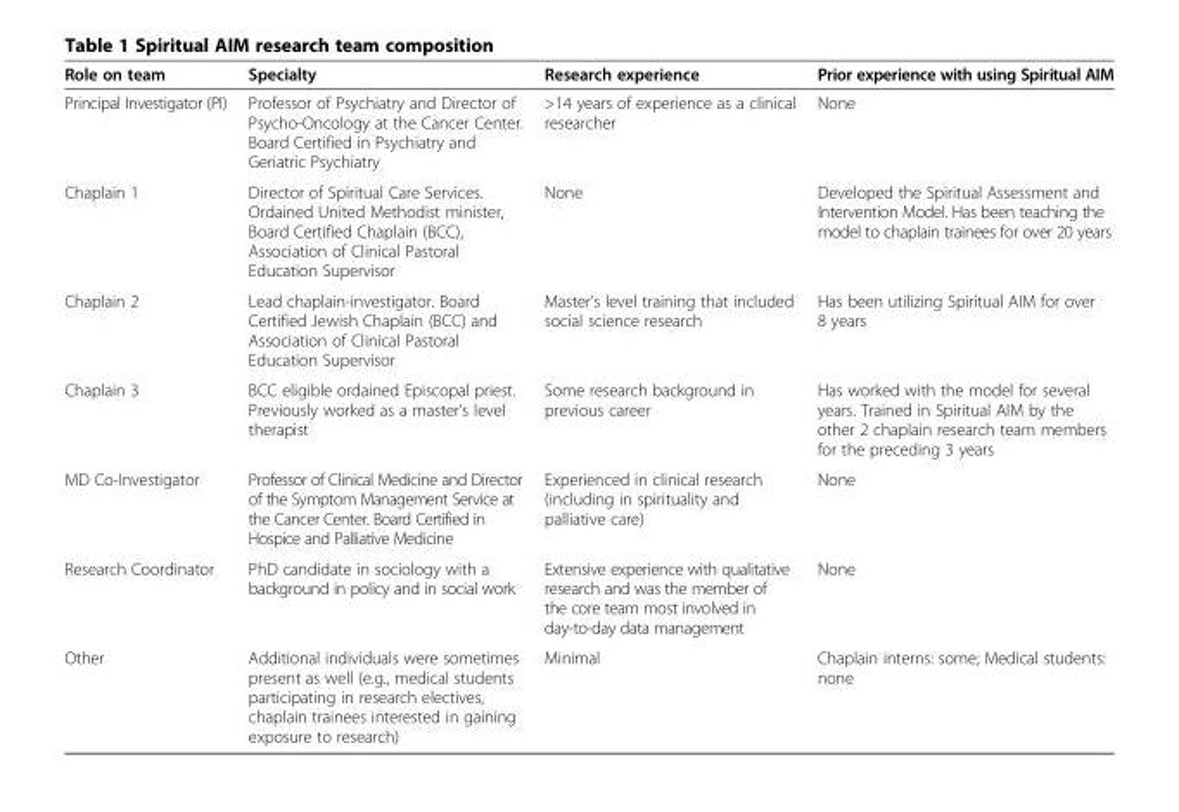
<table><thead><tr><td>Role on team</td><td>Specialty</td><td>Research experience</td><td>Prior experience with using Spiritual AIM</td></tr></thead><tbody><tr><td>Principal Investigator (PI)</td><td>Professor of Psychiatry and Director of Psycho-Oncology at the Cancer Center. Board Certified in Psychiatry and Geriatric Psychiatry</td><td>&gt;14 years of experience as a clinical researcher</td><td>None</td></tr><tr><td>Chaplain 1</td><td>Director of Spiritual Care Services. Ordained United Methodist minister, Board Certified Chaplain (BCC), Association of Clinical Pastoral Education Supervisor</td><td>None</td><td>Developed the Spiritual Assessment and Intervention Model. Has been teaching the model to chaplain trainees for over 20 years</td></tr><tr><td>Chaplain 2</td><td>Lead chaplain-investigator. Board Certified Jewish Chaplain (BCC) and Association of Clinical Pastoral Education Supervisor</td><td>Master’s level training that included social science research</td><td>Has been utilizing Spiritual AIM for over 8 years</td></tr><tr><td>Chaplain 3</td><td>BCC eligible ordained Episcopal priest. Previously worked as a master’s level therapist</td><td>Some research background in previous career</td><td>Has worked with the model for several years. Trained in Spiritual AIM by the other 2 chaplain research team members for the preceding 3 years</td></tr><tr><td>MD Co-Investigator</td><td>Professor of Clinical Medicine and Director of the Symptom Management Service at the Cancer Center. Board Certified in Hospice and Palliative Medicine</td><td>Experienced in clinical research (including in spirituality and palliative care)</td><td>None</td></tr><tr><td>Research Coordinator</td><td>PhD candidate in sociology with a background in policy and in social work</td><td>Extensive experience with qualitative research and was the member of the core team most involved in day-to-day data management</td><td>None</td></tr><tr><td>Other</td><td>Additional individuals were sometimes present as well (e.g., medical students participating in research electives, chaplain trainees interested in gaining exposure to research)</td><td>Minimal</td><td>Chaplain interns: some; Medical students: none</td></tr></tbody></table>